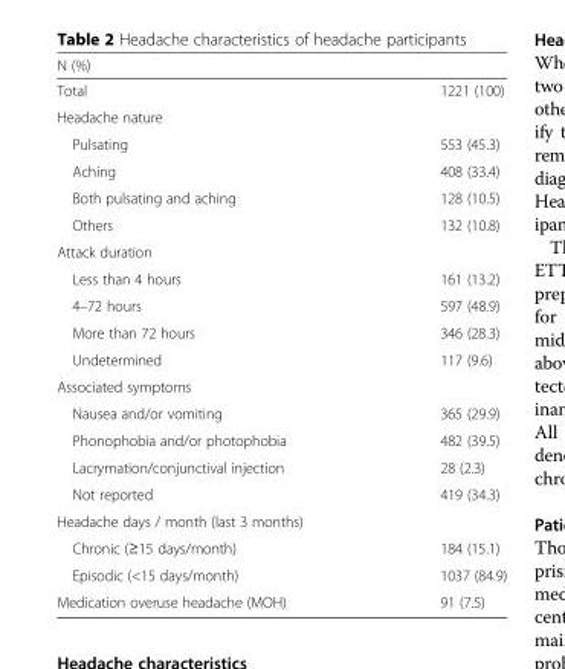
<table><thead><tr><td colspan="2">N (%)</td></tr><tr><td>Total</td><td>1221 (100)</td></tr></thead><tbody><tr><td colspan="2">Headache nature</td></tr><tr><td>Pulsating</td><td>553 (45.3)</td></tr><tr><td>Aching</td><td>408 (33.4)</td></tr><tr><td>Both pulsating and aching</td><td>128 (10.5)</td></tr><tr><td>Others</td><td>132 (10.8)</td></tr><tr><td colspan="2">Attack duration</td></tr><tr><td>Less than 4 hours</td><td>161 (13.2)</td></tr><tr><td>4–72 hours</td><td>597 (48.9)</td></tr><tr><td>More than 72 hours</td><td>346 (28.3)</td></tr><tr><td>Undetermined</td><td>117 (9.6)</td></tr><tr><td colspan="2">Associated symptoms</td></tr><tr><td>Nausea and/or vomiting</td><td>365 (29.9)</td></tr><tr><td>Phonophobia and/or photophobia</td><td>482 (39.5)</td></tr><tr><td>Lacrymation/conjunctival injection</td><td>28 (2.3)</td></tr><tr><td>Not reported</td><td>419 (34.3)</td></tr><tr><td colspan="2">Headache days / month (last 3 months)</td></tr><tr><td>Chronic (≥15 days/month)</td><td>184 (15.1)</td></tr><tr><td>Episodic (&lt;15 days/month)</td><td>1037 (84.9)</td></tr><tr><td>Medication overuse headache (MOH)</td><td>91 (7.5)</td></tr></tbody></table>